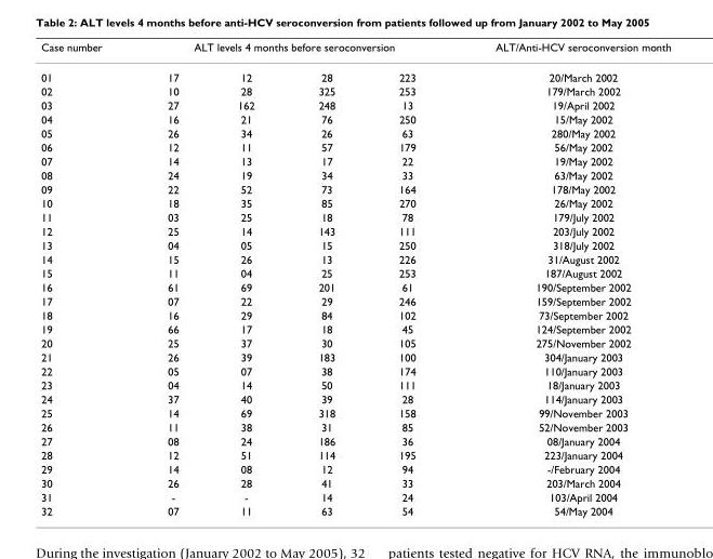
<table><thead><tr><td rowspan="2">Case number 01</td><td colspan="4">ALT levels 4 months before seroconversion</td><td rowspan="2">ALT/Anti-HCV seroconversion month 20/March 2002</td></tr><tr><td>17</td><td>12</td><td>28</td><td>223</td></tr></thead><tbody><tr><td>02</td><td>10</td><td>28</td><td>325</td><td>253</td><td>179/March 2002</td></tr><tr><td>03</td><td>27</td><td>162</td><td>248</td><td>13</td><td>19/April 2002</td></tr><tr><td>04</td><td>16</td><td>21</td><td>76</td><td>250</td><td>15/May 2002</td></tr><tr><td>05</td><td>26</td><td>34</td><td>26</td><td>63</td><td>280/May 2002</td></tr><tr><td>06</td><td>12</td><td>11</td><td>57</td><td>179</td><td>56/May 2002</td></tr><tr><td>07</td><td>14</td><td>13</td><td>17</td><td>22</td><td>19/May 2002</td></tr><tr><td>08</td><td>24</td><td>19</td><td>34</td><td>33</td><td>63/May 2002</td></tr><tr><td>09</td><td>22</td><td>52</td><td>73</td><td>164</td><td>178/May 2002</td></tr><tr><td>10</td><td>18</td><td>35</td><td>85</td><td>270</td><td>26/May 2002</td></tr><tr><td>11</td><td>03</td><td>25</td><td>18</td><td>78</td><td>179/July 2002</td></tr><tr><td>12</td><td>25</td><td>14</td><td>143</td><td>111</td><td>203/July 2002</td></tr><tr><td>13</td><td>04</td><td>05</td><td>15</td><td>250</td><td>318/July 2002</td></tr><tr><td>14</td><td>15</td><td>26</td><td>13</td><td>226</td><td>31/August 2002</td></tr><tr><td>15</td><td>11</td><td>04</td><td>25</td><td>253</td><td>187/August 2002</td></tr><tr><td>16</td><td>61</td><td>69</td><td>201</td><td>61</td><td>190/September 2002</td></tr><tr><td>17</td><td>07</td><td>22</td><td>29</td><td>246</td><td>159/September 2002</td></tr><tr><td>18</td><td>16</td><td>29</td><td>84</td><td>102</td><td>73/September 2002</td></tr><tr><td>19</td><td>66</td><td>17</td><td>18</td><td>45</td><td>124/September 2002</td></tr><tr><td>20</td><td>25</td><td>37</td><td>30</td><td>105</td><td>275/November 2002</td></tr><tr><td>21</td><td>26</td><td>39</td><td>183</td><td>100</td><td>304/January 2003</td></tr><tr><td>22</td><td>05</td><td>07</td><td>38</td><td>174</td><td>110/January 2003</td></tr><tr><td>23</td><td>04</td><td>14</td><td>50</td><td>111</td><td>18/January 2003</td></tr><tr><td>24</td><td>37</td><td>40</td><td>39</td><td>28</td><td>114/January 2003</td></tr><tr><td>25</td><td>14</td><td>69</td><td>318</td><td>158</td><td>99/November 2003</td></tr><tr><td>26</td><td>11</td><td>38</td><td>31</td><td>85</td><td>52/November 2003</td></tr><tr><td>27</td><td>08</td><td>24</td><td>186</td><td>36</td><td>08/January 2004</td></tr><tr><td>28</td><td>12</td><td>51</td><td>114</td><td>195</td><td>223/January 2004</td></tr><tr><td>29</td><td>14</td><td>08</td><td>12</td><td>94</td><td>-/February 2004</td></tr><tr><td>30</td><td>26</td><td>28</td><td>41</td><td>33</td><td>203/March 2004</td></tr><tr><td>31</td><td>-</td><td>-</td><td>14</td><td>24</td><td>103/April 2004</td></tr><tr><td>32</td><td>07</td><td>11</td><td>63</td><td>54</td><td>54/May 2004</td></tr></tbody></table>